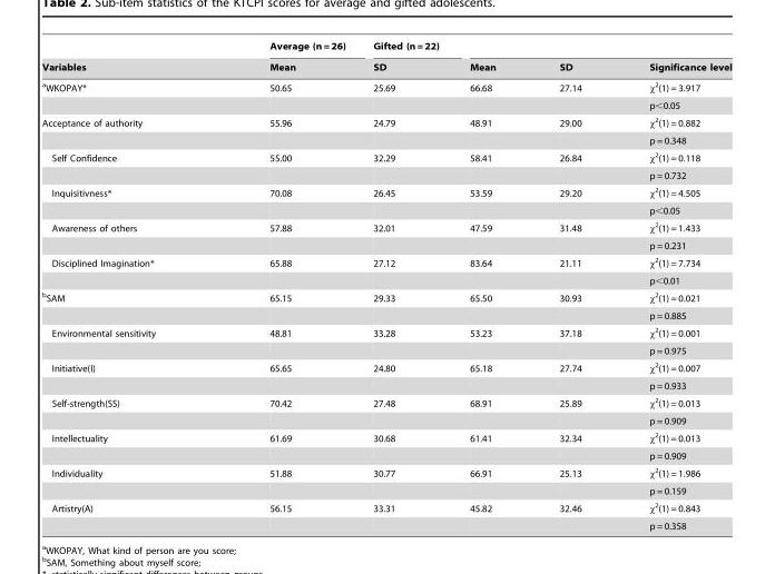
<table><thead><tr><td rowspan="2">Variables</td><td rowspan="2">Average (n = 26) Mean</td><td rowspan="2">Gifted (n = 22) SD</td><td rowspan="2">Mean</td><td rowspan="2">SD</td><td rowspan="2">Significance level</td></tr><tr></tr></thead><tbody><tr><td rowspan="2">aWKOPAY*</td><td>50.65</td><td>25.69</td><td>66.68</td><td>27.14</td><td>χ<sup>2</sup>(1) = 3.917</td></tr><tr><td></td><td></td><td></td><td></td><td>p&lt;0.05</td></tr><tr><td rowspan="2">Acceptance of authority</td><td>55.96</td><td>24.79</td><td>48.91</td><td>29.00</td><td>χ<sup>2</sup>(1) = 0.882</td></tr><tr><td></td><td></td><td></td><td></td><td>p = 0.348</td></tr><tr><td rowspan="2">Self Confidence</td><td>55.00</td><td>32.29</td><td>58.41</td><td>26.84</td><td>χ<sup>2</sup>(1) = 0.118</td></tr><tr><td></td><td></td><td></td><td></td><td>p = 0.732</td></tr><tr><td rowspan="2">Inquisitivness*</td><td>70.08</td><td>26.45</td><td>53.59</td><td>29.20</td><td>χ<sup>2</sup>(1) = 4.505</td></tr><tr><td></td><td></td><td></td><td></td><td>p&lt;0.05</td></tr><tr><td rowspan="2">Awareness of others</td><td>57.88</td><td>32.01</td><td>47.59</td><td>31.48</td><td>χ<sup>2</sup>(1) = 1.433</td></tr><tr><td></td><td></td><td></td><td></td><td>p = 0.231</td></tr><tr><td rowspan="2">Disciplined Imagination*</td><td>65.88</td><td>27.12</td><td>83.64</td><td>21.11</td><td>χ<sup>2</sup>(1) = 7.734</td></tr><tr><td></td><td></td><td></td><td></td><td>p&lt;0.01</td></tr><tr><td rowspan="2">bSAM</td><td>65.15</td><td>29.33</td><td>65.50</td><td>30.93</td><td>χ<sup>2</sup>(1) = 0.021</td></tr><tr><td></td><td></td><td></td><td></td><td>p = 0.885</td></tr><tr><td rowspan="2">Environmental sensitivity</td><td>48.81</td><td>33.28</td><td>53.23</td><td>37.18</td><td>χ<sup>2</sup>(1) = 0.001</td></tr><tr><td></td><td></td><td></td><td></td><td>p = 0.975</td></tr><tr><td rowspan="2">Initiative(I)</td><td>65.65</td><td>24.80</td><td>65.18</td><td>27.74</td><td>χ<sup>2</sup>(1) = 0.007</td></tr><tr><td></td><td></td><td></td><td></td><td>p = 0.933</td></tr><tr><td rowspan="2">Self-strength(SS)</td><td>70.42</td><td>27.48</td><td>68.91</td><td>25.89</td><td>χ<sup>2</sup>(1) = 0.013</td></tr><tr><td></td><td></td><td></td><td></td><td>p = 0.909</td></tr><tr><td rowspan="2">Intellectuality</td><td>61.69</td><td>30.68</td><td>61.41</td><td>32.34</td><td>χ<sup>2</sup>(1) = 0.013</td></tr><tr><td></td><td></td><td></td><td></td><td>p = 0.909</td></tr><tr><td rowspan="2">Individuality</td><td>51.88</td><td>30.77</td><td>66.91</td><td>25.13</td><td>χ<sup>2</sup>(1) = 1.986</td></tr><tr><td></td><td></td><td></td><td></td><td>p = 0.159</td></tr><tr><td rowspan="2">Artistry(A)</td><td>56.15</td><td>33.31</td><td>45.82</td><td>32.46</td><td>χ<sup>2</sup>(1) = 0.843</td></tr><tr><td></td><td></td><td></td><td></td><td>p = 0.358</td></tr></tbody></table>